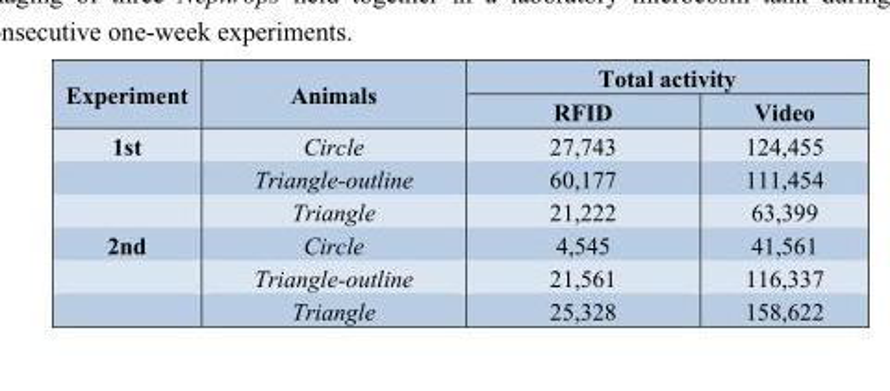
<table><thead><tr><td rowspan="2">Experiment</td><td rowspan="2">Animals</td><td colspan="2">Total activity</td></tr><tr><td>RFID</td><td>Video</td></tr></thead><tbody><tr><td rowspan="3">1st</td><td>Circle</td><td>27,743</td><td>124,455</td></tr><tr><td>Triangle-outline</td><td>60,177</td><td>111,454</td></tr><tr><td>Triangle</td><td>21,222</td><td>63,399</td></tr><tr><td rowspan="3">2nd</td><td>Circle</td><td>4,545</td><td>41,561</td></tr><tr><td>Triangle-outline</td><td>21,561</td><td>116,337</td></tr><tr><td>Triangle</td><td>25,328</td><td>158,622</td></tr></tbody></table>